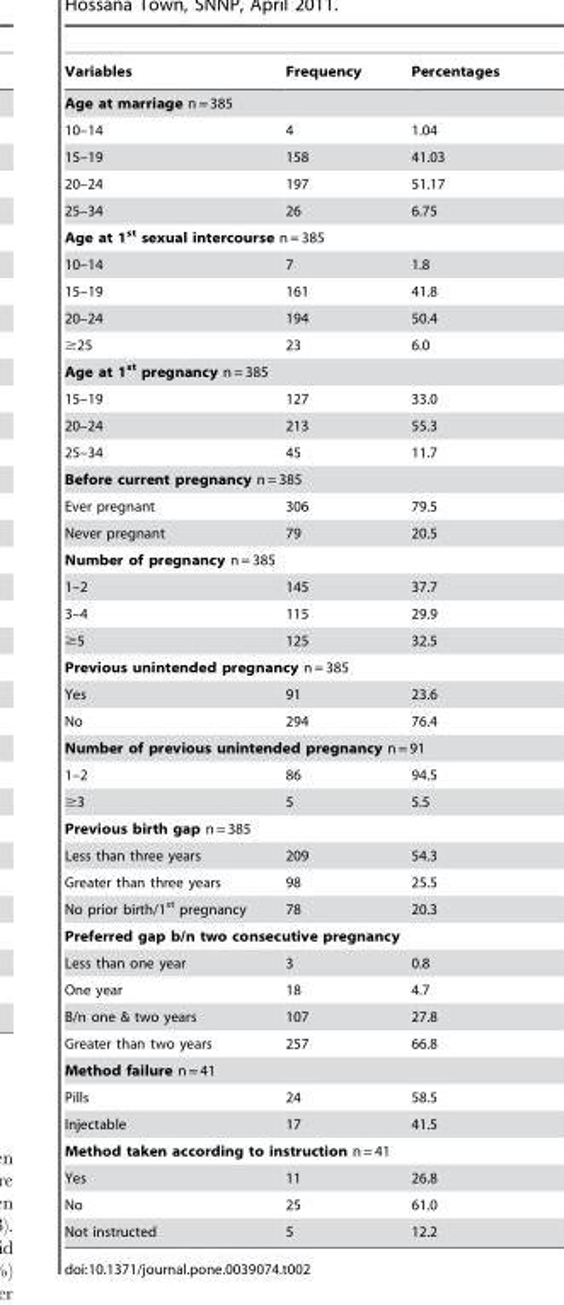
<table><thead><tr><td>Variables</td><td>Frequency</td><td>Percentages</td></tr></thead><tbody><tr><td colspan="3">Age at marriage n = 385</td></tr><tr><td>10–14</td><td>4</td><td>1.04</td></tr><tr><td>15–19</td><td>158</td><td>41.03</td></tr><tr><td>20–24</td><td>197</td><td>51.17</td></tr><tr><td>25–34</td><td>26</td><td>6.75</td></tr><tr><td colspan="3">Age at 1<sup>st</sup> sexual intercourse n = 385</td></tr><tr><td>10–14</td><td>7</td><td>1.8</td></tr><tr><td>15–19</td><td>161</td><td>41.8</td></tr><tr><td>20–24</td><td>194</td><td>50.4</td></tr><tr><td>≥25</td><td>23</td><td>6.0</td></tr><tr><td colspan="3">Age at 1<sup>st</sup> pregnancy n = 385</td></tr><tr><td>15–19</td><td>127</td><td>33.0</td></tr><tr><td>20–24</td><td>213</td><td>55.3</td></tr><tr><td>25–34</td><td>45</td><td>11.7</td></tr><tr><td colspan="3">Before current pregnancy n = 385</td></tr><tr><td>Ever pregnant</td><td>306</td><td>79.5</td></tr><tr><td>Never pregnant</td><td>79</td><td>20.5</td></tr><tr><td colspan="3">Number of pregnancy n = 385</td></tr><tr><td>1–2</td><td>145</td><td>37.7</td></tr><tr><td>3–4</td><td>115</td><td>29.9</td></tr><tr><td>≥5</td><td>125</td><td>32.5</td></tr><tr><td colspan="3">Previous unintended pregnancy n = 385</td></tr><tr><td>Yes</td><td>91</td><td>23.6</td></tr><tr><td>No</td><td>294</td><td>76.4</td></tr><tr><td colspan="3">Number of previous unintended pregnancy n = 91</td></tr><tr><td>1–2</td><td>86</td><td>94.5</td></tr><tr><td>≥3</td><td>5</td><td>5.5</td></tr><tr><td colspan="3">Previous birth gap n = 385</td></tr><tr><td>Less than three years</td><td>209</td><td>54.3</td></tr><tr><td>Greater than three years</td><td>98</td><td>25.5</td></tr><tr><td>No prior birth/1<sup>st</sup> pregnancy</td><td>78</td><td>20.3</td></tr><tr><td colspan="3">Preferred gap b/n two consecutive pregnancy</td></tr><tr><td>Less than one year</td><td>3</td><td>0.8</td></tr><tr><td>One year</td><td>18</td><td>4.7</td></tr><tr><td>B/n one &amp; two years</td><td>107</td><td>27.8</td></tr><tr><td>Greater than two years</td><td>257</td><td>66.8</td></tr><tr><td colspan="3">Method failure n = 41</td></tr><tr><td>Pills</td><td>24</td><td>58.5</td></tr><tr><td>Injectable</td><td>17</td><td>41.5</td></tr><tr><td colspan="3">Method taken according to instruction n = 41</td></tr><tr><td>Yes</td><td>11</td><td>26.8</td></tr><tr><td>No</td><td>25</td><td>61.0</td></tr><tr><td>Not instructed</td><td>5</td><td>12.2</td></tr></tbody></table>